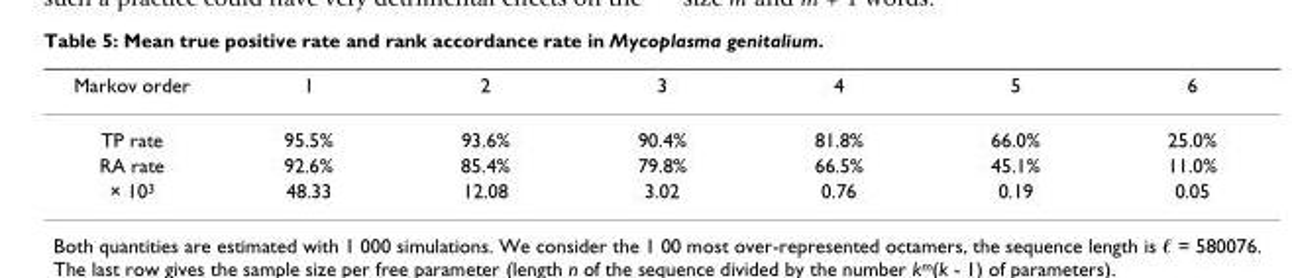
<table><thead><tr><td>Markov order</td><td>1</td><td>2</td><td>3</td><td>4</td><td>5</td><td>6</td></tr></thead><tbody><tr><td>TP rate</td><td>95.5%</td><td>93.6%</td><td>90.4%</td><td>81.8%</td><td>66.0%</td><td>25.0%</td></tr><tr><td>RA rate</td><td>92.6%</td><td>85.4%</td><td>79.8%</td><td>66.5%</td><td>45.1%</td><td>11.0%</td></tr><tr><td>× 10<sup>3</sup></td><td>48.33</td><td>12.08</td><td>3.02</td><td>0.76</td><td>0.19</td><td>0.05</td></tr></tbody></table>